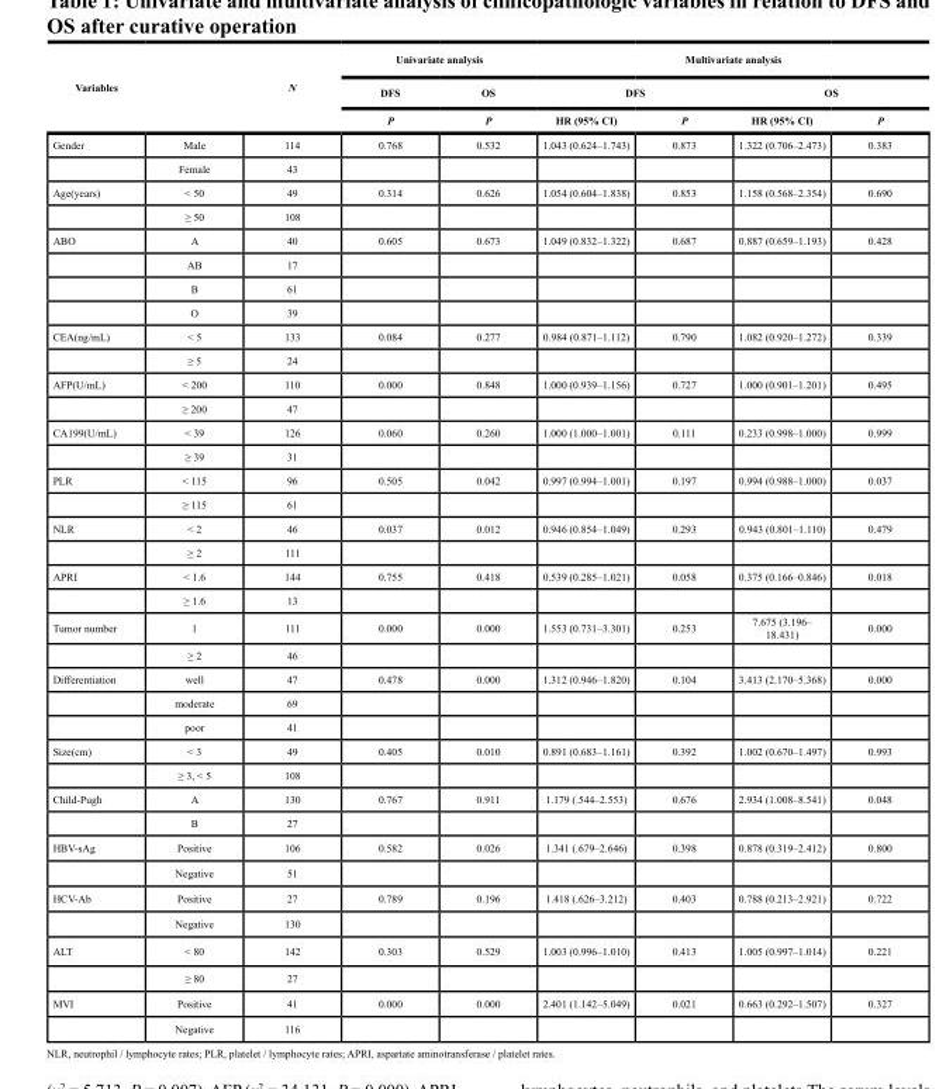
<table><thead><tr><td rowspan="3">Variables</td><td rowspan="3"></td><td rowspan="3">N</td><td colspan="2">Univariate analysis</td><td colspan="4">Multivariate analysis</td></tr><tr><td rowspan="2">DFS P</td><td rowspan="2">OS P</td><td colspan="2">DFS</td><td colspan="2">OS</td></tr><tr><td>HR (95% CI)</td><td>P</td><td>HR (95% CI)</td><td>P</td></tr></thead><tbody><tr><td rowspan="2">Gender</td><td>Male</td><td>114</td><td>0.768</td><td>0.532</td><td>1.043 (0.624–1.743)</td><td>0.873</td><td>1.322 (0.706–2.473)</td><td>0.383</td></tr><tr><td>Female</td><td>43</td><td></td><td></td><td></td><td></td><td></td><td></td></tr><tr><td rowspan="2">Age(years)</td><td>&lt; 50</td><td>49</td><td>0.314</td><td>0.626</td><td>1.054 (0.604–1.838)</td><td>0.853</td><td>1.158 (0.568–2.354)</td><td>0.690</td></tr><tr><td>≥ 50</td><td>108</td><td></td><td></td><td></td><td></td><td></td><td></td></tr><tr><td rowspan="4">ABO</td><td>A</td><td>40</td><td>0.605</td><td>0.673</td><td>1.049 (0.832–1.322)</td><td>0.687</td><td>0.887 (0.659–1.193)</td><td>0.428</td></tr><tr><td>AB</td><td>17</td><td></td><td></td><td></td><td></td><td></td><td></td></tr><tr><td>B</td><td>61</td><td></td><td></td><td></td><td></td><td></td><td></td></tr><tr><td>O</td><td>39</td><td></td><td></td><td></td><td></td><td></td><td></td></tr><tr><td rowspan="2">CEA(ng/mL)</td><td>&lt; 5</td><td>133</td><td>0.084</td><td>0.277</td><td>0.984 (0.871–1.112)</td><td>0.790</td><td>1.082 (0.920–1.272)</td><td>0.339</td></tr><tr><td>≥ 5</td><td>24</td><td></td><td></td><td></td><td></td><td></td><td></td></tr><tr><td rowspan="2">AFP(U/mL)</td><td>&lt; 200</td><td>110</td><td>0.000</td><td>0.848</td><td>1.000 (0.939–1.156)</td><td>0.727</td><td>1.000 (0.901–1.201)</td><td>0.495</td></tr><tr><td>≥ 200</td><td>47</td><td></td><td></td><td></td><td></td><td></td><td></td></tr><tr><td rowspan="2">CA199(U/mL)</td><td>&lt; 39</td><td>126</td><td>0.060</td><td>0.260</td><td>1.000 (1.000–1.001)</td><td>0.111</td><td>0.233 (0.998–1.000)</td><td>0.999</td></tr><tr><td>≥ 39</td><td>31</td><td></td><td></td><td></td><td></td><td></td><td></td></tr><tr><td rowspan="2">PLR</td><td>&lt; 115</td><td>96</td><td>0.505</td><td>0.042</td><td>0.997 (0.994–1.001)</td><td>0.197</td><td>0.994 (0.988–1.000)</td><td>0.037</td></tr><tr><td>≥ 115</td><td>61</td><td></td><td></td><td></td><td></td><td></td><td></td></tr><tr><td rowspan="2">NLR</td><td>&lt; 2</td><td>46</td><td>0.037</td><td>0.012</td><td>0.946 (0.854–1.049)</td><td>0.293</td><td>0.943 (0.801–1.110)</td><td>0.479</td></tr><tr><td>≥ 2</td><td>111</td><td></td><td></td><td></td><td></td><td></td><td></td></tr><tr><td rowspan="2">APRI</td><td>&lt; 1.6</td><td>144</td><td>0.755</td><td>0.418</td><td>0.539 (0.285–1.021)</td><td>0.058</td><td>0.375 (0.166–0.846)</td><td>0.018</td></tr><tr><td>≥ 1.6</td><td>13</td><td></td><td></td><td></td><td></td><td></td><td></td></tr><tr><td rowspan="2">Tumor number</td><td>1</td><td>111</td><td>0.000</td><td>0.000</td><td>1.553 (0.731–3.301)</td><td>0.253</td><td>7.675 (3.196– 18.431)</td><td>0.000</td></tr><tr><td>≥ 2</td><td>46</td><td></td><td></td><td></td><td></td><td></td><td></td></tr><tr><td rowspan="3">Differentiation</td><td>well</td><td>47</td><td>0.478</td><td>0.000</td><td>1.312 (0.946–1.820)</td><td>0.104</td><td>3.413 (2.170–5.368)</td><td>0.000</td></tr><tr><td>moderate</td><td>69</td><td></td><td></td><td></td><td></td><td></td><td></td></tr><tr><td>poor</td><td>41</td><td></td><td></td><td></td><td></td><td></td><td></td></tr><tr><td rowspan="2">Size(cm)</td><td>&lt; 3</td><td>49</td><td>0.405</td><td>0.010</td><td>0.891 (0.683–1.161)</td><td>0.392</td><td>1.002 (0.670–1.497)</td><td>0.993</td></tr><tr><td>≥ 3, &lt; 5</td><td>108</td><td></td><td></td><td></td><td></td><td></td><td></td></tr><tr><td rowspan="2">Child-Pugh</td><td>A</td><td>130</td><td>0.767</td><td>0.911</td><td>1.179 (.544–2.553)</td><td>0.676</td><td>2.934 (1.008–8.541)</td><td>0.048</td></tr><tr><td>B</td><td>27</td><td></td><td></td><td></td><td></td><td></td><td></td></tr><tr><td rowspan="2">HBV-sAg</td><td>Positive</td><td>106</td><td>0.582</td><td>0.026</td><td>1.341 (.679–2.646)</td><td>0.398</td><td>0.878 (0.319–2.412)</td><td>0.800</td></tr><tr><td>Negative</td><td>51</td><td></td><td></td><td></td><td></td><td></td><td></td></tr><tr><td rowspan="2">HCV-Ab</td><td>Positive</td><td>27</td><td>0.789</td><td>0.196</td><td>1.418 (.626–3.212)</td><td>0.403</td><td>0.788 (0.213–2.921)</td><td>0.722</td></tr><tr><td>Negative</td><td>130</td><td></td><td></td><td></td><td></td><td></td><td></td></tr><tr><td rowspan="2">ALT</td><td>&lt; 80</td><td>142</td><td>0.303</td><td>0.529</td><td>1.003 (0.996–1.010)</td><td>0.413</td><td>1.005 (0.997–1.014)</td><td>0.221</td></tr><tr><td>≥ 80</td><td>27</td><td></td><td></td><td></td><td></td><td></td><td></td></tr><tr><td rowspan="2">MVI</td><td>Positive</td><td>41</td><td>0.000</td><td>0.000</td><td>2.401 (1.142–5.049)</td><td>0.021</td><td>0.663 (0.292–1.507)</td><td>0.327</td></tr><tr><td>Negative</td><td>116</td><td></td><td></td><td></td><td></td><td></td><td></td></tr></tbody></table>